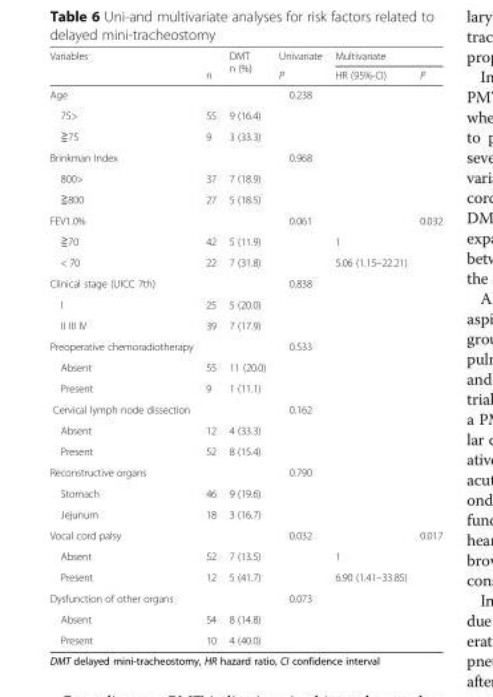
<table><thead><tr><td rowspan="2">Variables</td><td rowspan="2">n</td><td rowspan="2">DMT n (%)</td><td rowspan="2">Univariate P</td><td colspan="2">Multivariate</td></tr><tr><td>HR (95%-CI)</td><td>P</td></tr></thead><tbody><tr><td>Age</td><td></td><td></td><td>0.238</td><td></td><td></td></tr><tr><td>75&gt;</td><td>55</td><td>9 (16.4)</td><td></td><td></td><td></td></tr><tr><td>≧75</td><td>9</td><td>3 (33.3)</td><td></td><td></td><td></td></tr><tr><td>Brinkman Index</td><td></td><td></td><td>0.968</td><td></td><td></td></tr><tr><td>800&gt;</td><td>37</td><td>7 (18.9)</td><td></td><td></td><td></td></tr><tr><td>≧800</td><td>27</td><td>5 (18.5)</td><td></td><td></td><td></td></tr><tr><td>FEV1.0%</td><td></td><td></td><td>0.061</td><td></td><td>0.032</td></tr><tr><td>≧70</td><td>42</td><td>5 (11.9)</td><td></td><td>1</td><td></td></tr><tr><td>&lt; 70</td><td>22</td><td>7 (31.8)</td><td></td><td>5.06 (1.15–22.21)</td><td></td></tr><tr><td>Clinical stage (UICC 7th)</td><td></td><td></td><td>0.838</td><td></td><td></td></tr><tr><td>I</td><td>25</td><td>5 (20.0)</td><td></td><td></td><td></td></tr><tr><td>II III IV</td><td>39</td><td>7 (17.9)</td><td></td><td></td><td></td></tr><tr><td>Preoperative chemoradiotherapy</td><td></td><td></td><td>0.533</td><td></td><td></td></tr><tr><td>Absent</td><td>55</td><td>11 (20.0)</td><td></td><td></td><td></td></tr><tr><td>Present</td><td>9</td><td>1 (11.1)</td><td></td><td></td><td></td></tr><tr><td>Cervical lymph node dissection</td><td></td><td></td><td>0.162</td><td></td><td></td></tr><tr><td>Absent</td><td>12</td><td>4 (33.3)</td><td></td><td></td><td></td></tr><tr><td>Present</td><td>52</td><td>8 (15.4)</td><td></td><td></td><td></td></tr><tr><td>Reconstructive organs</td><td></td><td></td><td>0.790</td><td></td><td></td></tr><tr><td>Stomach</td><td>46</td><td>9 (19.6)</td><td></td><td></td><td></td></tr><tr><td>Jejunum</td><td>18</td><td>3 (16.7)</td><td></td><td></td><td></td></tr><tr><td>Vocal cord palsy</td><td></td><td></td><td>0.032</td><td></td><td>0.017</td></tr><tr><td>Absent</td><td>52</td><td>7 (13.5)</td><td></td><td>1</td><td></td></tr><tr><td>Present</td><td>12</td><td>5 (41.7)</td><td></td><td>6.90 (1.41–33.85)</td><td></td></tr><tr><td>Dysfunction of other organs</td><td></td><td></td><td>0.073</td><td></td><td></td></tr><tr><td>Absent</td><td>54</td><td>8 (14.8)</td><td></td><td></td><td></td></tr><tr><td>Present</td><td>10</td><td>4 (40.0)</td><td></td><td></td><td></td></tr></tbody></table>